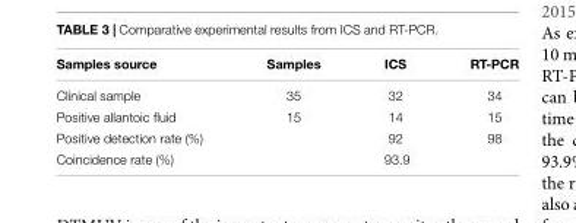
<table><thead><tr><td>Samples source</td><td>Samples</td><td>ICS</td><td>RT-PCR</td></tr></thead><tbody><tr><td>Clinical sample</td><td>35</td><td>32</td><td>34</td></tr><tr><td>Positive allantoic fluid</td><td>15</td><td>14</td><td>15</td></tr><tr><td>Positive detection rate (%)</td><td></td><td>92</td><td>98</td></tr><tr><td>Coincidence rate (%)</td><td></td><td>93.9</td><td></td></tr></tbody></table>